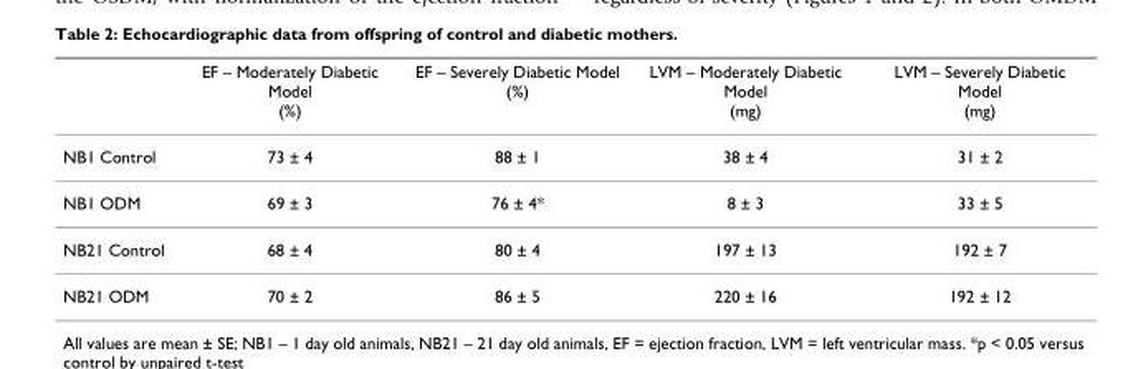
<table><thead><tr><td></td><td>EF – Moderately Diabetic Model (%)</td><td>EF – Severely Diabetic Model (%)</td><td>LVM – Moderately Diabetic Model (mg)</td><td>LVM – Severely Diabetic Model (mg)</td></tr></thead><tbody><tr><td>NB1 Control</td><td>73 ± 4</td><td>88 ± 1</td><td>38 ± 4</td><td>31 ± 2</td></tr><tr><td>NB1 ODM</td><td>69 ± 3</td><td>76 ± 4*</td><td>8 ± 3</td><td>33 ± 5</td></tr><tr><td>NB21 Control</td><td>68 ± 4</td><td>80 ± 4</td><td>197 ± 13</td><td>192 ± 7</td></tr><tr><td>NB21 ODM</td><td>70 ± 2</td><td>86 ± 5</td><td>220 ± 16</td><td>192 ± 12</td></tr></tbody></table>